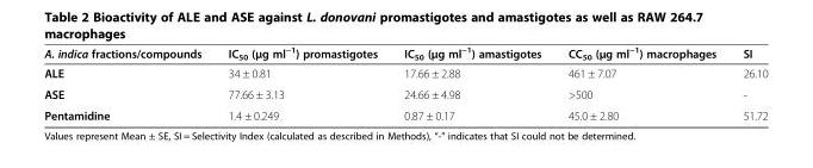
<table><thead><tr><td>A. indica fractions/compounds</td><td>IC<sub>50</sub> (μg ml<sup>−1</sup>) promastigotes</td><td>IC<sub>50</sub> (μg ml<sup>−1</sup>) amastigotes</td><td>CC<sub>50</sub> (μg ml<sup>−1</sup>) macrophages</td><td>SI</td></tr></thead><tbody><tr><td>ALE</td><td>34 ± 0.81</td><td>17.66 ± 2.88</td><td>461 ± 7.07</td><td>26.10</td></tr><tr><td>ASE</td><td>77.66 ± 3.13</td><td>24.66 ± 4.98</td><td>&gt;500</td><td>-</td></tr><tr><td>Pentamidine</td><td>1.4 ± 0.249</td><td>0.87 ± 0.17</td><td>45.0 ± 2.80</td><td>51.72</td></tr></tbody></table>